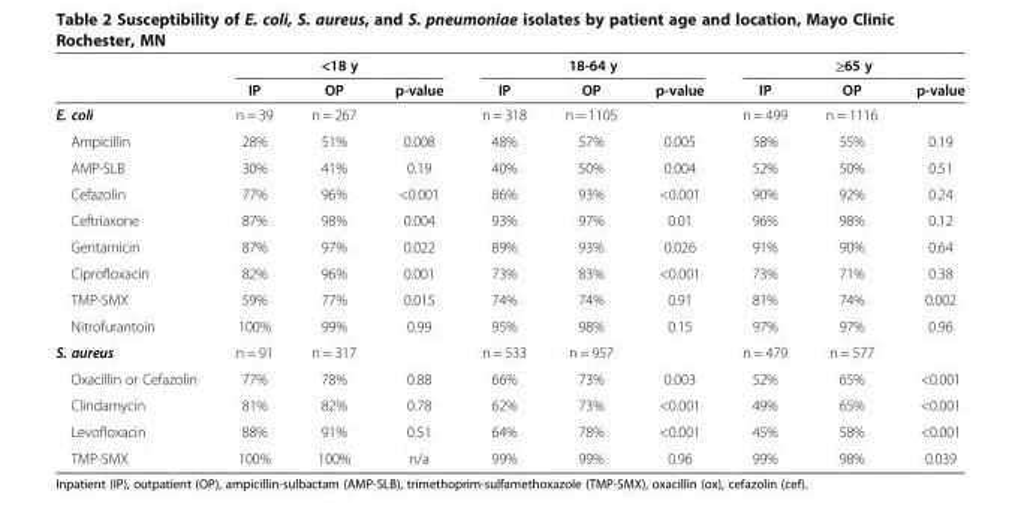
<table><thead><tr><td rowspan="2"></td><td colspan="3">&lt;18 y</td><td colspan="3">18-64 y</td><td colspan="3">≥65 y</td></tr><tr><td>IP</td><td>OP</td><td>p-value</td><td>IP</td><td>OP</td><td>p-value</td><td>IP</td><td>OP</td><td>p-value</td></tr></thead><tbody><tr><td>E. coli</td><td>n = 39</td><td>n = 267</td><td></td><td>n = 318</td><td>n = 1105</td><td></td><td>n = 499</td><td>n = 1116</td><td></td></tr><tr><td>Ampicillin</td><td>28%</td><td>51%</td><td>0.008</td><td>48%</td><td>57%</td><td>0.005</td><td>58%</td><td>55%</td><td>0.19</td></tr><tr><td>AMP-SLB</td><td>30%</td><td>41%</td><td>0.19</td><td>40%</td><td>50%</td><td>0.004</td><td>52%</td><td>50%</td><td>0.51</td></tr><tr><td>Cefazolin</td><td>77%</td><td>96%</td><td>&lt;0.001</td><td>86%</td><td>93%</td><td>&lt;0.001</td><td>90%</td><td>92%</td><td>0.24</td></tr><tr><td>Ceftriaxone</td><td>87%</td><td>98%</td><td>0.004</td><td>93%</td><td>97%</td><td>0.01</td><td>96%</td><td>98%</td><td>0.12</td></tr><tr><td>Gentamicin</td><td>87%</td><td>97%</td><td>0.022</td><td>89%</td><td>93%</td><td>0.026</td><td>91%</td><td>90%</td><td>0.64</td></tr><tr><td>Ciprofloxacin</td><td>82%</td><td>96%</td><td>0.001</td><td>73%</td><td>83%</td><td>&lt;0.001</td><td>73%</td><td>71%</td><td>0.38</td></tr><tr><td>TMP-SMX</td><td>59%</td><td>77%</td><td>0.015</td><td>74%</td><td>74%</td><td>0.91</td><td>81%</td><td>74%</td><td>0.002</td></tr><tr><td>Nitrofurantoin</td><td>100%</td><td>99%</td><td>0.99</td><td>95%</td><td>98%</td><td>0.15</td><td>97%</td><td>97%</td><td>0.96</td></tr><tr><td>S. aureus</td><td>n = 91</td><td>n = 317</td><td></td><td>n = 533</td><td>n = 957</td><td></td><td>n = 479</td><td>n = 577</td><td></td></tr><tr><td>Oxacillin or Cefazolin</td><td>77%</td><td>78%</td><td>0.88</td><td>66%</td><td>73%</td><td>0.003</td><td>52%</td><td>65%</td><td>&lt;0.001</td></tr><tr><td>Clindamycin</td><td>81%</td><td>82%</td><td>0.78</td><td>62%</td><td>73%</td><td>&lt;0.001</td><td>49%</td><td>65%</td><td>&lt;0.001</td></tr><tr><td>Levofloxacin</td><td>88%</td><td>91%</td><td>0.51</td><td>64%</td><td>78%</td><td>&lt;0.001</td><td>45%</td><td>58%</td><td>&lt;0.001</td></tr><tr><td>TMP-SMX</td><td>100%</td><td>100%</td><td>n/a</td><td>99%</td><td>99%</td><td>0.96</td><td>99%</td><td>98%</td><td>0.039</td></tr></tbody></table>